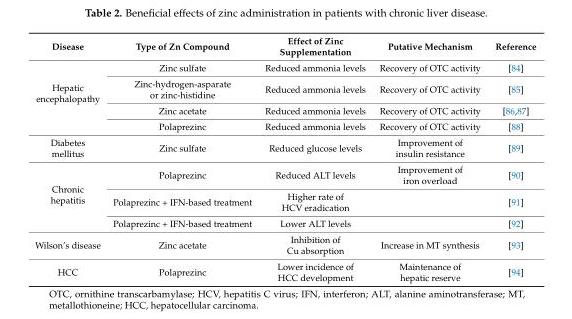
<table><thead><tr><td>Disease</td><td>Type of Zn Compound</td><td>Effect of Zinc Supplementation</td><td>Putative Mechanism</td><td>Reference</td></tr></thead><tbody><tr><td rowspan="4">Hepatic encephalopathy</td><td>Zinc sulfate</td><td>Reduced ammonia levels</td><td>Recovery of OTC activity</td><td>[84]</td></tr><tr><td>Zinc-hydrogen-asparate or zinc-histidine</td><td>Reduced ammonia levels</td><td>Recovery of OTC activity</td><td>[85]</td></tr><tr><td>Zinc acetate</td><td>Reduced ammonia levels</td><td>Recovery of OTC activity</td><td>[86,87]</td></tr><tr><td>Polaprezinc</td><td>Reduced ammonia levels</td><td>Recovery of OTC activity</td><td>[88]</td></tr><tr><td>Diabetes mellitus</td><td>Zinc sulfate</td><td>Reduced glucose levels</td><td>Improvement of insulin resistance</td><td>[89]</td></tr><tr><td rowspan="3">Chronic hepatitis</td><td>Polaprezinc</td><td>Reduced ALT levels</td><td>Improvement of iron overload</td><td>[90]</td></tr><tr><td>Polaprezinc + IFN-based treatment</td><td>Higher rate of HCV eradication</td><td></td><td>[91]</td></tr><tr><td>Polaprezinc + IFN-based treatment</td><td>Lower ALT levels</td><td></td><td>[92]</td></tr><tr><td>Wilson’s disease</td><td>Zinc acetate</td><td>Inhibition of Cu absorption</td><td>Increase in MT synthesis</td><td>[93]</td></tr><tr><td>HCC</td><td>Polaprezinc</td><td>Lower incidence of HCC development</td><td>Maintenance of hepatic reserve</td><td>[94]</td></tr></tbody></table>